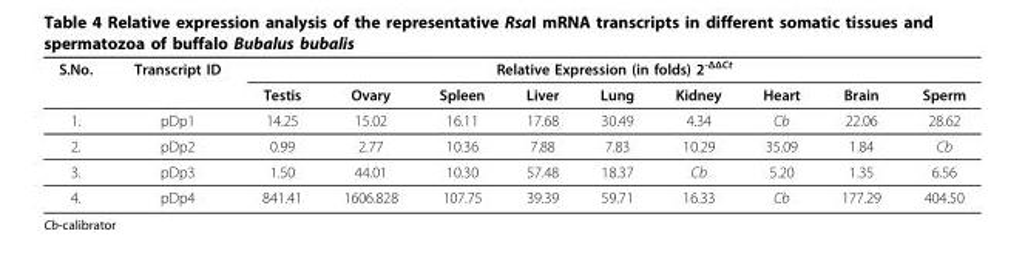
<table><thead><tr><td rowspan="2">S.No.</td><td rowspan="2">Transcript ID</td><td colspan="9">Relative Expression (in folds) 2<sup>-ΔΔCt</sup></td></tr><tr><td>Testis</td><td>Ovary</td><td>Spleen</td><td>Liver</td><td>Lung</td><td>Kidney</td><td>Heart</td><td>Brain</td><td>Sperm</td></tr></thead><tbody><tr><td>1.</td><td>pDp1</td><td>14.25</td><td>15.02</td><td>16.11</td><td>17.68</td><td>30.49</td><td>4.34</td><td>Cb</td><td>22.06</td><td>28.62</td></tr><tr><td>2.</td><td>pDp2</td><td>0.99</td><td>2.77</td><td>10.36</td><td>7.88</td><td>7.83</td><td>10.29</td><td>35.09</td><td>1.84</td><td>Cb</td></tr><tr><td>3.</td><td>pDp3</td><td>1.50</td><td>44.01</td><td>10.30</td><td>57.48</td><td>18.37</td><td>Cb</td><td>5.20</td><td>1.35</td><td>6.56</td></tr><tr><td>4.</td><td>pDp4</td><td>841.41</td><td>1606.828</td><td>107.75</td><td>39.39</td><td>59.71</td><td>16.33</td><td>Cb</td><td>177.29</td><td>404.50</td></tr></tbody></table>